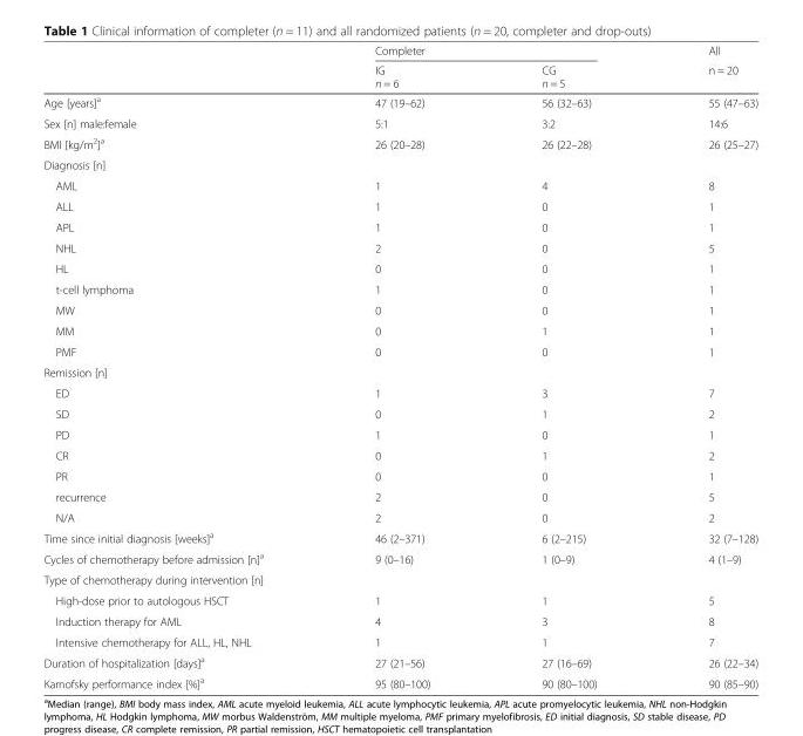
<table><thead><tr><td rowspan="2"></td><td colspan="2">Completer</td><td rowspan="2">All n = 20</td></tr><tr><td>IG n = 6</td><td>CG n = 5</td></tr></thead><tbody><tr><td>Age [years]<sup>a</sup></td><td>47 (19–62)</td><td>56 (32–63)</td><td>55 (47–63)</td></tr><tr><td>Sex [n] male:female</td><td>5:1</td><td>3:2</td><td>14:6</td></tr><tr><td>BMI [kg/m<sup>2</sup>]<sup>a</sup></td><td>26 (20–28)</td><td>26 (22–28)</td><td>26 (25–27)</td></tr><tr><td colspan="4">Diagnosis [n]</td></tr><tr><td>AML</td><td>1</td><td>4</td><td>8</td></tr><tr><td>ALL</td><td>1</td><td>0</td><td>1</td></tr><tr><td>APL</td><td>1</td><td>0</td><td>1</td></tr><tr><td>NHL</td><td>2</td><td>0</td><td>5</td></tr><tr><td>HL</td><td>0</td><td>0</td><td>1</td></tr><tr><td>t-cell lymphoma</td><td>1</td><td>0</td><td>1</td></tr><tr><td>MW</td><td>0</td><td>0</td><td>1</td></tr><tr><td>MM</td><td>0</td><td>1</td><td>1</td></tr><tr><td>PMF</td><td>0</td><td>0</td><td>1</td></tr><tr><td colspan="4">Remission [n]</td></tr><tr><td>ED</td><td>1</td><td>3</td><td>7</td></tr><tr><td>SD</td><td>0</td><td>1</td><td>2</td></tr><tr><td>PD</td><td>1</td><td>0</td><td>1</td></tr><tr><td>CR</td><td>0</td><td>1</td><td>2</td></tr><tr><td>PR</td><td>0</td><td>0</td><td>1</td></tr><tr><td>recurrence</td><td>2</td><td>0</td><td>5</td></tr><tr><td>N/A</td><td>2</td><td>0</td><td>2</td></tr><tr><td>Time since initial diagnosis [weeks]<sup>a</sup></td><td>46 (2–371)</td><td>6 (2–215)</td><td>32 (7–128)</td></tr><tr><td>Cycles of chemotherapy before admission [n]<sup>a</sup></td><td>9 (0–16)</td><td>1 (0–9)</td><td>4 (1–9)</td></tr><tr><td colspan="4">Type of chemotherapy during intervention [n]</td></tr><tr><td>High-dose prior to autologous HSCT</td><td>1</td><td>1</td><td>5</td></tr><tr><td>Induction therapy for AML</td><td>4</td><td>3</td><td>8</td></tr><tr><td>Intensive chemotherapy for ALL, HL, NHL</td><td>1</td><td>1</td><td>7</td></tr><tr><td>Duration of hospitalization [days]<sup>a</sup></td><td>27 (21–56)</td><td>27 (16–69)</td><td>26 (22–34)</td></tr><tr><td>Karnofsky performance index [%]<sup>a</sup></td><td>95 (80–100)</td><td>90 (80–100)</td><td>90 (85–90)</td></tr></tbody></table>